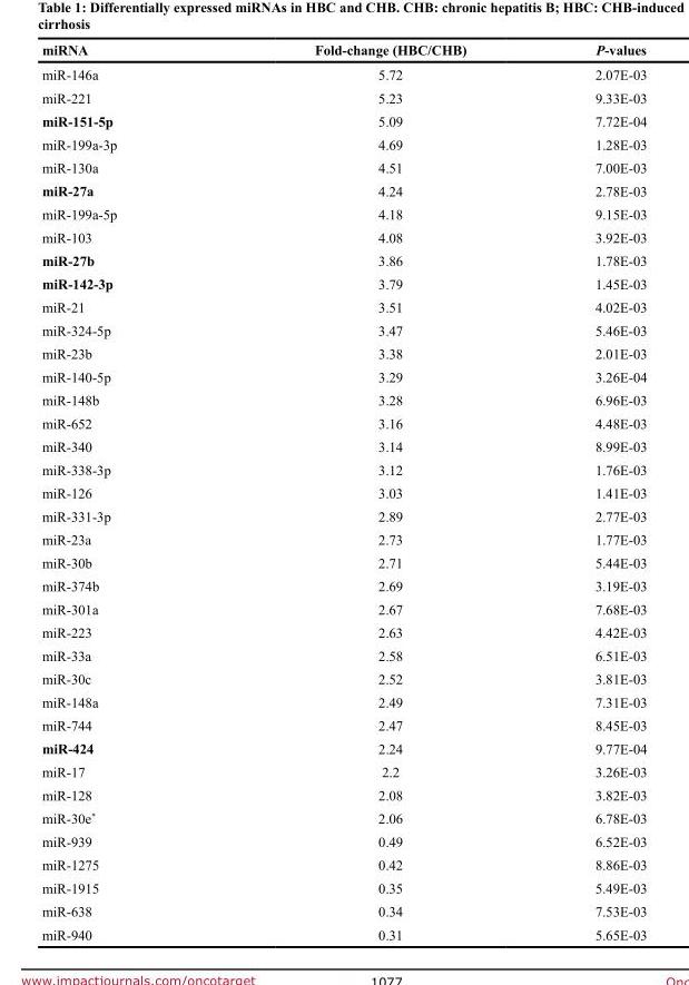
<table><thead><tr><td>miRNA</td><td>Fold-change (HBC/CHB)</td><td>P-values</td></tr></thead><tbody><tr><td>miR-146a</td><td>5.72</td><td>2.07E-03</td></tr><tr><td>miR-221</td><td>5.23</td><td>9.33E-03</td></tr><tr><td>miR-151-5p</td><td>5.09</td><td>7.72E-04</td></tr><tr><td>miR-199a-3p</td><td>4.69</td><td>1.28E-03</td></tr><tr><td>miR-130a</td><td>4.51</td><td>7.00E-03</td></tr><tr><td>miR-27a</td><td>4.24</td><td>2.78E-03</td></tr><tr><td>miR-199a-5p</td><td>4.18</td><td>9.15E-03</td></tr><tr><td>miR-103</td><td>4.08</td><td>3.92E-03</td></tr><tr><td>miR-27b</td><td>3.86</td><td>1.78E-03</td></tr><tr><td>miR-142-3p</td><td>3.79</td><td>1.45E-03</td></tr><tr><td>miR-21</td><td>3.51</td><td>4.02E-03</td></tr><tr><td>miR-324-5p</td><td>3.47</td><td>5.46E-03</td></tr><tr><td>miR-23b</td><td>3.38</td><td>2.01E-03</td></tr><tr><td>miR-140-5p</td><td>3.29</td><td>3.26E-04</td></tr><tr><td>miR-148b</td><td>3.28</td><td>6.96E-03</td></tr><tr><td>miR-652</td><td>3.16</td><td>4.48E-03</td></tr><tr><td>miR-340</td><td>3.14</td><td>8.99E-03</td></tr><tr><td>miR-338-3p</td><td>3.12</td><td>1.76E-03</td></tr><tr><td>miR-126</td><td>3.03</td><td>1.41E-03</td></tr><tr><td>miR-331-3p</td><td>2.89</td><td>2.77E-03</td></tr><tr><td>miR-23a</td><td>2.73</td><td>1.77E-03</td></tr><tr><td>miR-30b</td><td>2.71</td><td>5.44E-03</td></tr><tr><td>miR-374b</td><td>2.69</td><td>3.19E-03</td></tr><tr><td>miR-301a</td><td>2.67</td><td>7.68E-03</td></tr><tr><td>miR-223</td><td>2.63</td><td>4.42E-03</td></tr><tr><td>miR-33a</td><td>2.58</td><td>6.51E-03</td></tr><tr><td>miR-30c</td><td>2.52</td><td>3.81E-03</td></tr><tr><td>miR-148a</td><td>2.49</td><td>7.31E-03</td></tr><tr><td>miR-744</td><td>2.47</td><td>8.45E-03</td></tr><tr><td>miR-424</td><td>2.24</td><td>9.77E-04</td></tr><tr><td>miR-17</td><td>2.2</td><td>3.26E-03</td></tr><tr><td>miR-128</td><td>2.08</td><td>3.82E-03</td></tr><tr><td>miR-30e*</td><td>2.06</td><td>6.78E-03</td></tr><tr><td>miR-939</td><td>0.49</td><td>6.52E-03</td></tr><tr><td>miR-1275</td><td>0.42</td><td>8.86E-03</td></tr><tr><td>miR-1915</td><td>0.35</td><td>5.49E-03</td></tr><tr><td>miR-638</td><td>0.34</td><td>7.53E-03</td></tr><tr><td>miR-940</td><td>0.31</td><td>5.65E-03</td></tr></tbody></table>